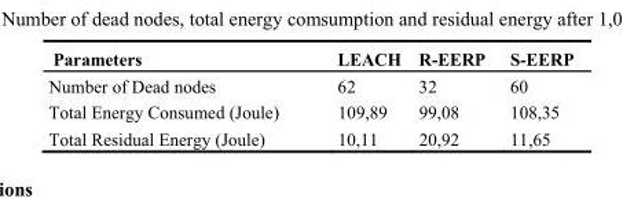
<table><thead><tr><td>Parameters</td><td>LEACH</td><td>R-EERP</td><td>S-EERP</td></tr></thead><tbody><tr><td>Number of Dead nodes</td><td>62</td><td>32</td><td>60</td></tr><tr><td>Total Energy Consumed (Joule)</td><td>109,89</td><td>99,08</td><td>108,35</td></tr><tr><td>Total Residual Energy (Joule)</td><td>10,11</td><td>20,92</td><td>11,65</td></tr></tbody></table>